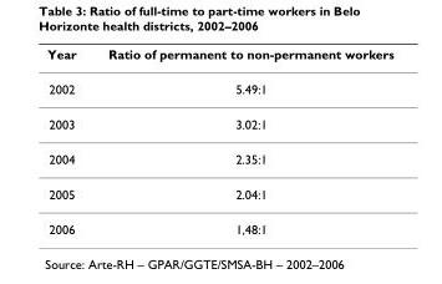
<table><thead><tr><td>Year</td><td>Ratio of permanent to non-permanent workers</td></tr></thead><tbody><tr><td>2002</td><td>5.49:1</td></tr><tr><td>2003</td><td>3.02:1</td></tr><tr><td>2004</td><td>2.35:1</td></tr><tr><td>2005</td><td>2.04:1</td></tr><tr><td>2006</td><td>1,48:1</td></tr></tbody></table>